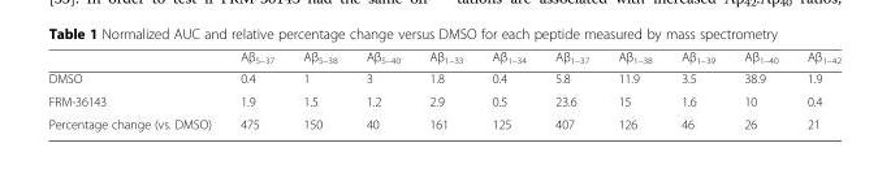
<table><thead><tr><td></td><td>Aβ<sub>5–37</sub></td><td>Aβ<sub>5–38</sub></td><td>Aβ<sub>5–40</sub></td><td>Aβ<sub>1–33</sub></td><td>Aβ<sub>1–34</sub></td><td>Aβ<sub>1–37</sub></td><td>Aβ<sub>1–38</sub></td><td>Aβ<sub>1–39</sub></td><td>Aβ<sub>1–40</sub></td><td>Aβ<sub>1–42</sub></td></tr></thead><tbody><tr><td>DMSO</td><td>0.4</td><td>1</td><td>3</td><td>1.8</td><td>0.4</td><td>5.8</td><td>11.9</td><td>3.5</td><td>38.9</td><td>1.9</td></tr><tr><td>FRM-36143</td><td>1.9</td><td>1.5</td><td>1.2</td><td>2.9</td><td>0.5</td><td>23.6</td><td>15</td><td>1.6</td><td>10</td><td>0.4</td></tr><tr><td>Percentage change (vs. DMSO)</td><td>475</td><td>150</td><td>40</td><td>161</td><td>125</td><td>407</td><td>126</td><td>46</td><td>26</td><td>21</td></tr></tbody></table>